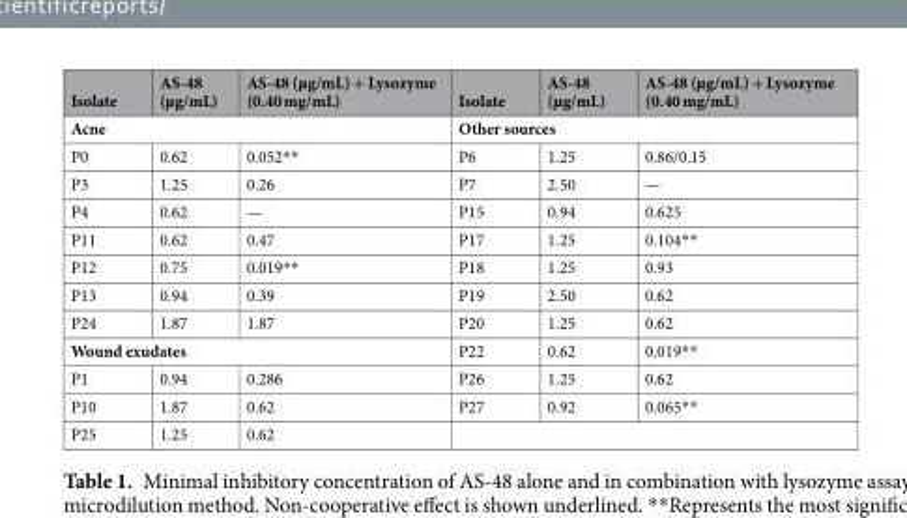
<table><thead><tr><td>Isolate</td><td>AS-48 (µg/mL)</td><td>AS-48 (µg/mL) + Lysozyme (0.40 mg/mL)</td><td>Isolate</td><td>AS-48 (µg/mL)</td><td>AS-48 (µg/mL) + Lysozyme (0.40 mg/mL)</td></tr></thead><tbody><tr><td colspan="3">Acne</td><td colspan="3">Other sources</td></tr><tr><td>P0</td><td>0.62</td><td>0.052**</td><td>P6</td><td>1.25</td><td>0.86/0.15</td></tr><tr><td>P3</td><td>1.25</td><td>0.26</td><td>P7</td><td>2.50</td><td>—</td></tr><tr><td>P4</td><td>0.62</td><td>—</td><td>P15</td><td>0.94</td><td>0.625</td></tr><tr><td>P11</td><td>0.62</td><td>0.47</td><td>P17</td><td>1.25</td><td>0.104**</td></tr><tr><td>P12</td><td>0.75</td><td>0.019**</td><td>P18</td><td>1.25</td><td>0.93</td></tr><tr><td>P13</td><td>0.94</td><td>0.39</td><td>P19</td><td>2.50</td><td>0.62</td></tr><tr><td>P24</td><td>1.87</td><td>1.87</td><td>P20</td><td>1.25</td><td>0.62</td></tr><tr><td colspan="3">Wound exudates</td><td>P22</td><td>0.62</td><td>0.019**</td></tr><tr><td>P1</td><td>0.94</td><td>0.286</td><td>P26</td><td>1.25</td><td>0.62</td></tr><tr><td>P10</td><td>1.87</td><td>0.62</td><td>P27</td><td>0.92</td><td>0.065**</td></tr><tr><td>P25</td><td>1.25</td><td>0.62</td><td colspan="3"></td></tr></tbody></table>